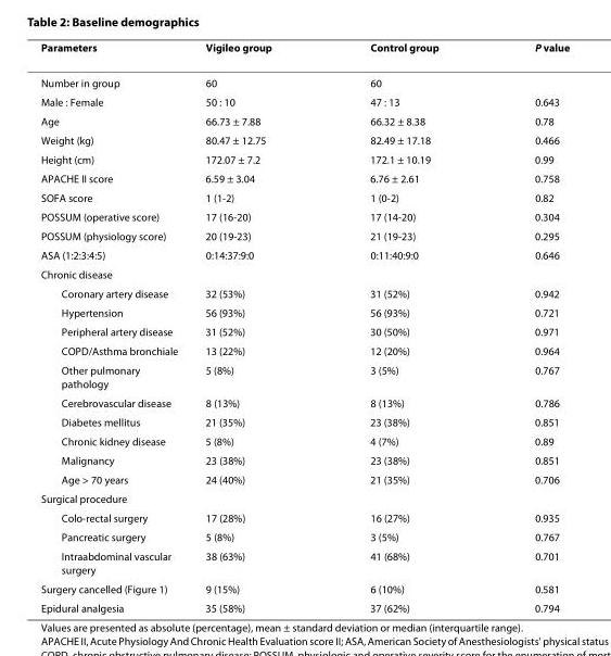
<table><thead><tr><td>Parameters</td><td>Vigileo group</td><td>Control group</td><td>P value</td></tr></thead><tbody><tr><td>Number in group</td><td>60</td><td>60</td><td></td></tr><tr><td>Male : Female</td><td>50 : 10</td><td>47 : 13</td><td>0.643</td></tr><tr><td>Age</td><td>66.73 ± 7.88</td><td>66.32 ± 8.38</td><td>0.78</td></tr><tr><td>Weight (kg)</td><td>80.47 ± 12.75</td><td>82.49 ± 17.18</td><td>0.466</td></tr><tr><td>Height (cm)</td><td>172.07 ± 7.2</td><td>172.1 ± 10.19</td><td>0.99</td></tr><tr><td>APACHE II score</td><td>6.59 ± 3.04</td><td>6.76 ± 2.61</td><td>0.758</td></tr><tr><td>SOFA score</td><td>1 (1-2)</td><td>1 (0-2)</td><td>0.82</td></tr><tr><td>POSSUM (operative score)</td><td>17 (16-20)</td><td>17 (14-20)</td><td>0.304</td></tr><tr><td>POSSUM (physiology score)</td><td>20 (19-23)</td><td>21 (19-23)</td><td>0.295</td></tr><tr><td>ASA (1:2:3:4:5)</td><td>0:14:37:9:0</td><td>0:11:40:9:0</td><td>0.646</td></tr><tr><td colspan="4">Chronic disease</td></tr><tr><td>Coronary artery disease</td><td>32 (53%)</td><td>31 (52%)</td><td>0.942</td></tr><tr><td>Hypertension</td><td>56 (93%)</td><td>56 (93%)</td><td>0.721</td></tr><tr><td>Peripheral artery disease</td><td>31 (52%)</td><td>30 (50%)</td><td>0.971</td></tr><tr><td>COPD/Asthma bronchiale</td><td>13 (22%)</td><td>12 (20%)</td><td>0.964</td></tr><tr><td>Other pulmonary pathology</td><td>5 (8%)</td><td>3 (5%)</td><td>0.767</td></tr><tr><td>Cerebrovascular disease</td><td>8 (13%)</td><td>8 (13%)</td><td>0.786</td></tr><tr><td>Diabetes mellitus</td><td>21 (35%)</td><td>23 (38%)</td><td>0.851</td></tr><tr><td>Chronic kidney disease</td><td>5 (8%)</td><td>4 (7%)</td><td>0.89</td></tr><tr><td>Malignancy</td><td>23 (38%)</td><td>23 (38%)</td><td>0.851</td></tr><tr><td>Age &gt; 70 years</td><td>24 (40%)</td><td>21 (35%)</td><td>0.706</td></tr><tr><td colspan="4">Surgical procedure</td></tr><tr><td>Colo-rectal surgery</td><td>17 (28%)</td><td>16 (27%)</td><td>0.935</td></tr><tr><td>Pancreatic surgery</td><td>5 (8%)</td><td>3 (5%)</td><td>0.767</td></tr><tr><td>Intraabdominal vascular surgery</td><td>38 (63%)</td><td>41 (68%)</td><td>0.701</td></tr><tr><td>Surgery cancelled (Figure 1)</td><td>9 (15%)</td><td>6 (10%)</td><td>0.581</td></tr><tr><td>Epidural analgesia</td><td>35 (58%)</td><td>37 (62%)</td><td>0.794</td></tr></tbody></table>